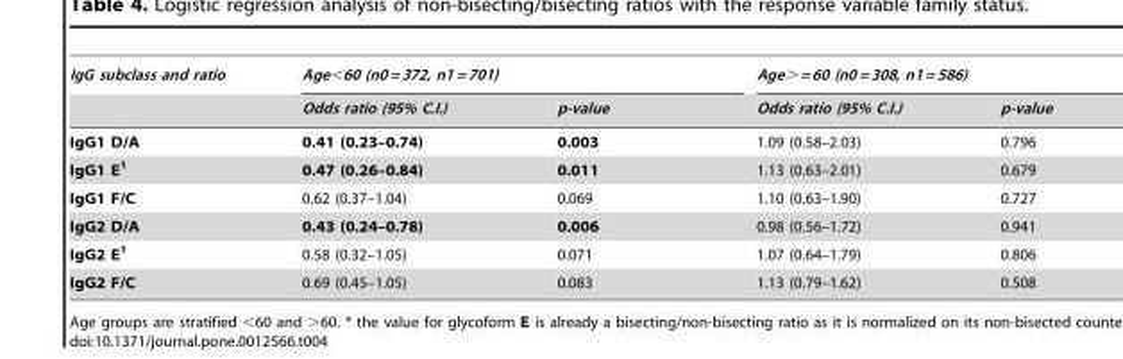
<table><thead><tr><td rowspan="2">IgG subclass and ratio</td><td colspan="2">Age&lt;60 (n0 = 372, n1 = 701)</td><td colspan="2">Age&gt; = 60 (n0 = 308, n1 = 586)</td></tr><tr><td>Odds ratio (95% C.I.)</td><td>p-value</td><td>Odds ratio (95% C.I.)</td><td>p-value</td></tr></thead><tbody><tr><td>IgG1 D/A</td><td>0.41 (0.23–0.74)</td><td>0.003</td><td>1.09 (0.58–2.03)</td><td>0.796</td></tr><tr><td>IgG1 E<sup>1</sup></td><td>0.47 (0.26–0.84)</td><td>0.011</td><td>1.13 (0.63–2.01)</td><td>0.679</td></tr><tr><td>IgG1 F/C</td><td>0.62 (0.37–1.04)</td><td>0.069</td><td>1.10 (0.63–1.90)</td><td>0.727</td></tr><tr><td>IgG2 D/A</td><td>0.43 (0.24–0.78)</td><td>0.006</td><td>0.98 (0.56–1.72)</td><td>0.941</td></tr><tr><td>IgG2 E<sup>1</sup></td><td>0.58 (0.32–1.05)</td><td>0.071</td><td>1.07 (0.64–1.79)</td><td>0.806</td></tr><tr><td>IgG2 F/C</td><td>0.69 (0.45–1.05)</td><td>0.083</td><td>1.13 (0.79–1.62)</td><td>0.508</td></tr></tbody></table>